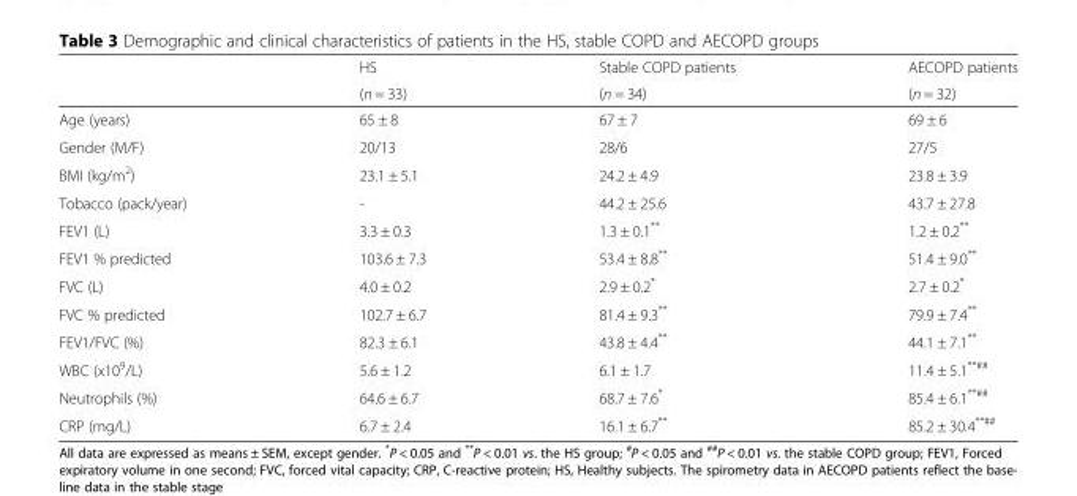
<table><thead><tr><td rowspan="2"></td><td rowspan="2">HS (n = 33)</td><td rowspan="2">Stable COPD patients (n = 34)</td><td rowspan="2">AECOPD patients (n = 32)</td></tr><tr></tr></thead><tbody><tr><td>Age (years)</td><td>65 ± 8</td><td>67 ± 7</td><td>69 ± 6</td></tr><tr><td>Gender (M/F)</td><td>20/13</td><td>28/6</td><td>27/5</td></tr><tr><td>BMI (kg/m<sup>2</sup>)</td><td>23.1 ± 5.1</td><td>24.2 ± 4.9</td><td>23.8 ± 3.9</td></tr><tr><td>Tobacco (pack/year)</td><td>-</td><td>44.2 ± 25.6</td><td>43.7 ± 27.8</td></tr><tr><td>FEV1 (L)</td><td>3.3 ± 0.3</td><td>1.3 ± 0.1**</td><td>1.2 ± 0.2**</td></tr><tr><td>FEV1 % predicted</td><td>103.6 ± 7.3</td><td>53.4 ± 8.8**</td><td>51.4 ± 9.0**</td></tr><tr><td>FVC (L)</td><td>4.0 ± 0.2</td><td>2.9 ± 0.2*</td><td>2.7 ± 0.2*</td></tr><tr><td>FVC % predicted</td><td>102.7 ± 6.7</td><td>81.4 ± 9.3**</td><td>79.9 ± 7.4**</td></tr><tr><td>FEV1/FVC (%)</td><td>82.3 ± 6.1</td><td>43.8 ± 4.4**</td><td>44.1 ± 7.1**</td></tr><tr><td>WBC (x10<sup>9</sup>/L)</td><td>5.6 ± 1.2</td><td>6.1 ± 1.7</td><td>11.4 ± 5.1<sup>**##</sup></td></tr><tr><td>Neutrophils (%)</td><td>64.6 ± 6.7</td><td>68.7 ± 7.6*</td><td>85.4 ± 6.1<sup>**##</sup></td></tr><tr><td>CRP (mg/L)</td><td>6.7 ± 2.4</td><td>16.1 ± 6.7**</td><td>85.2 ± 30.4<sup>**##</sup></td></tr></tbody></table>